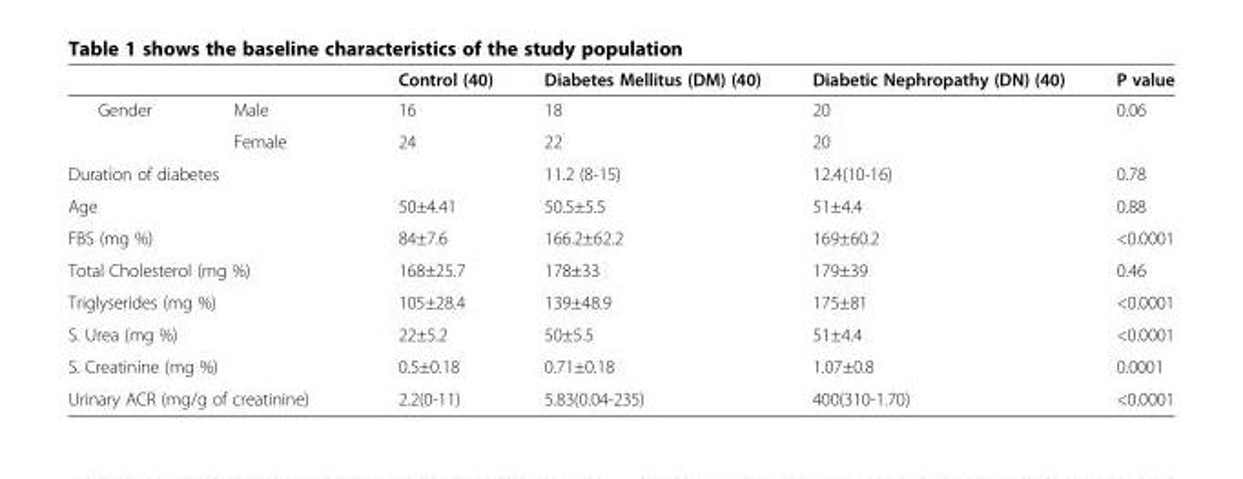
<table><thead><tr><td></td><td></td><td>Control (40)</td><td>Diabetes Mellitus (DM) (40)</td><td>Diabetic Nephropathy (DN) (40)</td><td>P value</td></tr></thead><tbody><tr><td rowspan="2">Gender</td><td>Male</td><td>16</td><td>18</td><td>20</td><td rowspan="2">0.06</td></tr><tr><td>Female</td><td>24</td><td>22</td><td>20</td></tr><tr><td colspan="2">Duration of diabetes</td><td></td><td>11.2 (8-15)</td><td>12.4(10-16)</td><td>0.78</td></tr><tr><td colspan="2">Age</td><td>50±4.41</td><td>50.5±5.5</td><td>51±4.4</td><td>0.88</td></tr><tr><td colspan="2">FBS (mg %)</td><td>84±7.6</td><td>166.2±62.2</td><td>169±60.2</td><td>&lt;0.0001</td></tr><tr><td colspan="2">Total Cholesterol (mg %)</td><td>168±25.7</td><td>178±33</td><td>179±39</td><td>0.46</td></tr><tr><td colspan="2">Triglyserides (mg %)</td><td>105±28.4</td><td>139±48.9</td><td>175±81</td><td>&lt;0.0001</td></tr><tr><td colspan="2">S. Urea (mg %)</td><td>22±5.2</td><td>50±5.5</td><td>51±4.4</td><td>&lt;0.0001</td></tr><tr><td colspan="2">S. Creatinine (mg %)</td><td>0.5±0.18</td><td>0.71±0.18</td><td>1.07±0.8</td><td>0.0001</td></tr><tr><td colspan="2">Urinary ACR (mg/g of creatinine)</td><td>2.2(0-11)</td><td>5.83(0.04-235)</td><td>400(310-1.70)</td><td>&lt;0.0001</td></tr></tbody></table>